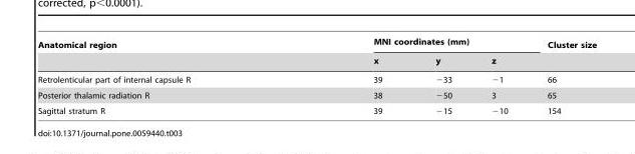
<table><thead><tr><td rowspan="2">Anatomical region</td><td colspan="3">MNI coordinates (mm)</td><td rowspan="2">Cluster size</td></tr><tr><td>x</td><td>y</td><td>z</td></tr></thead><tbody><tr><td>Retrolenticular part of internal capsule R</td><td>39</td><td>−33</td><td>−1</td><td>66</td></tr><tr><td>Posterior thalamic radiation R</td><td>38</td><td>−50</td><td>3</td><td>65</td></tr><tr><td>Sagittal stratum R</td><td>39</td><td>−15</td><td>−10</td><td>154</td></tr></tbody></table>